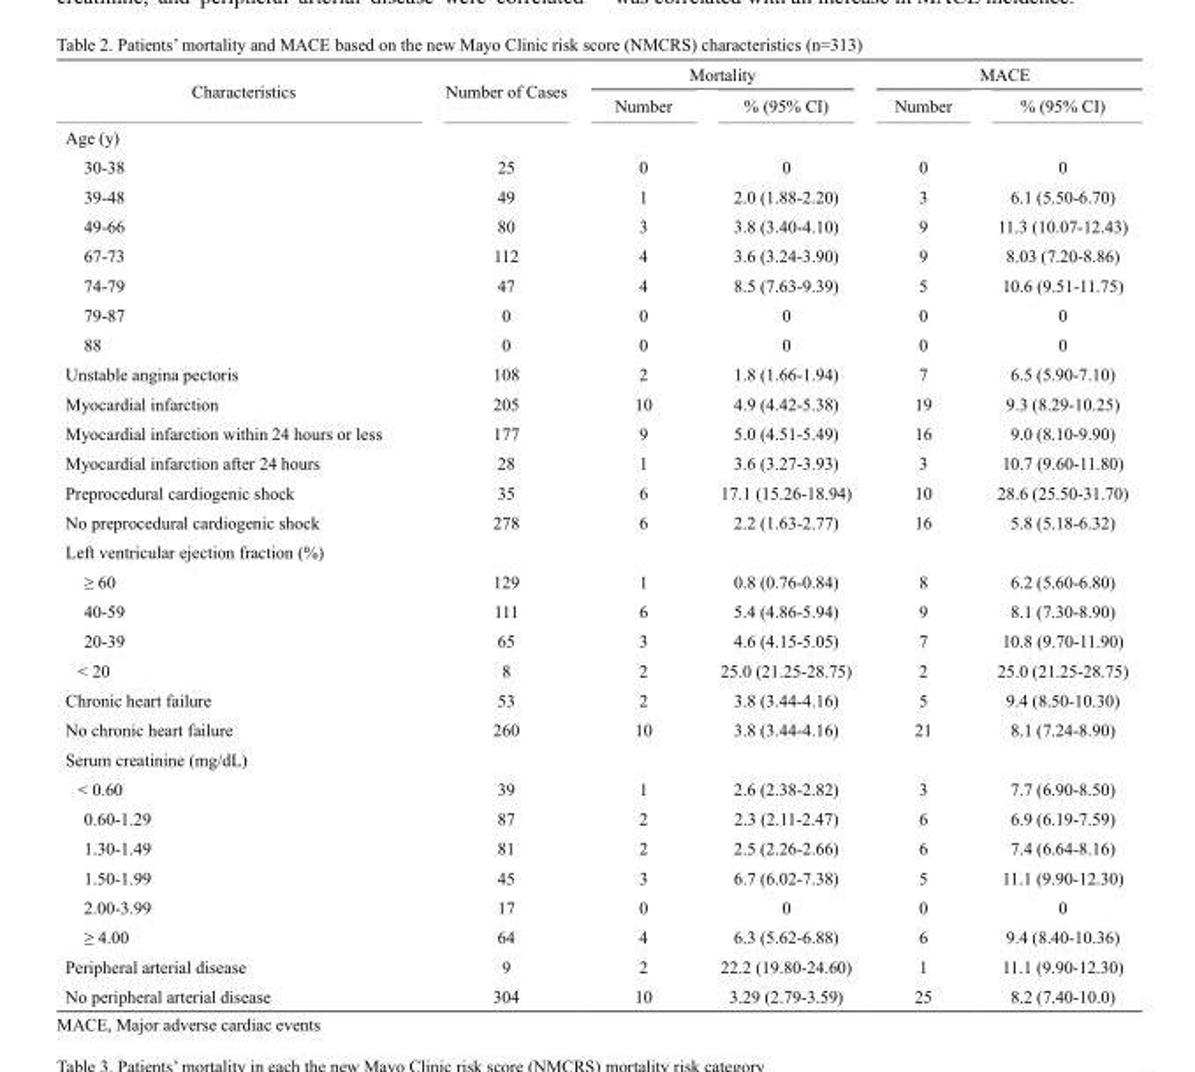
<table><thead><tr><td rowspan="2">Characteristics</td><td rowspan="2">Number of Cases</td><td colspan="2">Mortality</td><td colspan="2">MACE</td></tr><tr><td>Number</td><td>% (95% CI)</td><td>Number</td><td>% (95% CI)</td></tr></thead><tbody><tr><td colspan="6">Age (y)</td></tr><tr><td>30-38</td><td>25</td><td>0</td><td>0</td><td>0</td><td>0</td></tr><tr><td>39-48</td><td>49</td><td>1</td><td>2.0 (1.88-2.20)</td><td>3</td><td>6.1 (5.50-6.70)</td></tr><tr><td>49-66</td><td>80</td><td>3</td><td>3.8 (3.40-4.10)</td><td>9</td><td>11.3 (10.07-12.43)</td></tr><tr><td>67-73</td><td>112</td><td>4</td><td>3.6 (3.24-3.90)</td><td>9</td><td>8.03 (7.20-8.86)</td></tr><tr><td>74-79</td><td>47</td><td>4</td><td>8.5 (7.63-9.39)</td><td>5</td><td>10.6 (9.51-11.75)</td></tr><tr><td>79-87</td><td>0</td><td>0</td><td>0</td><td>0</td><td>0</td></tr><tr><td>88</td><td>0</td><td>0</td><td>0</td><td>0</td><td>0</td></tr><tr><td>Unstable angina pectoris</td><td>108</td><td>2</td><td>1.8 (1.66-1.94)</td><td>7</td><td>6.5 (5.90-7.10)</td></tr><tr><td>Myocardial infarction</td><td>205</td><td>10</td><td>4.9 (4.42-5.38)</td><td>19</td><td>9.3 (8.29-10.25)</td></tr><tr><td>Myocardial infarction within 24 hours or less</td><td>177</td><td>9</td><td>5.0 (4.51-5.49)</td><td>16</td><td>9.0 (8.10-9.90)</td></tr><tr><td>Myocardial infarction after 24 hours</td><td>28</td><td>1</td><td>3.6 (3.27-3.93)</td><td>3</td><td>10.7 (9.60-11.80)</td></tr><tr><td>Preprocedural cardiogenic shock</td><td>35</td><td>6</td><td>17.1 (15.26-18.94)</td><td>10</td><td>28.6 (25.50-31.70)</td></tr><tr><td>No preprocedural cardiogenic shock</td><td>278</td><td>6</td><td>2.2 (1.63-2.77)</td><td>16</td><td>5.8 (5.18-6.32)</td></tr><tr><td colspan="6">Left ventricular ejection fraction (%)</td></tr><tr><td>≥ 60</td><td>129</td><td>1</td><td>0.8 (0.76-0.84)</td><td>8</td><td>6.2 (5.60-6.80)</td></tr><tr><td>40-59</td><td>111</td><td>6</td><td>5.4 (4.86-5.94)</td><td>9</td><td>8.1 (7.30-8.90)</td></tr><tr><td>20-39</td><td>65</td><td>3</td><td>4.6 (4.15-5.05)</td><td>7</td><td>10.8 (9.70-11.90)</td></tr><tr><td>&lt; 20</td><td>8</td><td>2</td><td>25.0 (21.25-28.75)</td><td>2</td><td>25.0 (21.25-28.75)</td></tr><tr><td>Chronic heart failure</td><td>53</td><td>2</td><td>3.8 (3.44-4.16)</td><td>5</td><td>9.4 (8.50-10.30)</td></tr><tr><td>No chronic heart failure</td><td>260</td><td>10</td><td>3.8 (3.44-4.16)</td><td>21</td><td>8.1 (7.24-8.90)</td></tr><tr><td colspan="6">Serum creatinine (mg/dL)</td></tr><tr><td>&lt; 0.60</td><td>39</td><td>1</td><td>2.6 (2.38-2.82)</td><td>3</td><td>7.7 (6.90-8.50)</td></tr><tr><td>0.60-1.29</td><td>87</td><td>2</td><td>2.3 (2.11-2.47)</td><td>6</td><td>6.9 (6.19-7.59)</td></tr><tr><td>1.30-1.49</td><td>81</td><td>2</td><td>2.5 (2.26-2.66)</td><td>6</td><td>7.4 (6.64-8.16)</td></tr><tr><td>1.50-1.99</td><td>45</td><td>3</td><td>6.7 (6.02-7.38)</td><td>5</td><td>11.1 (9.90-12.30)</td></tr><tr><td>2.00-3.99</td><td>17</td><td>0</td><td>0</td><td>0</td><td>0</td></tr><tr><td>≥ 4.00</td><td>64</td><td>4</td><td>6.3 (5.62-6.88)</td><td>6</td><td>9.4 (8.40-10.36)</td></tr><tr><td>Peripheral arterial disease</td><td>9</td><td>2</td><td>22.2 (19.80-24.60)</td><td>1</td><td>11.1 (9.90-12.30)</td></tr><tr><td>No peripheral arterial disease</td><td>304</td><td>10</td><td>3.29 (2.79-3.59)</td><td>25</td><td>8.2 (7.40-10.0)</td></tr></tbody></table>